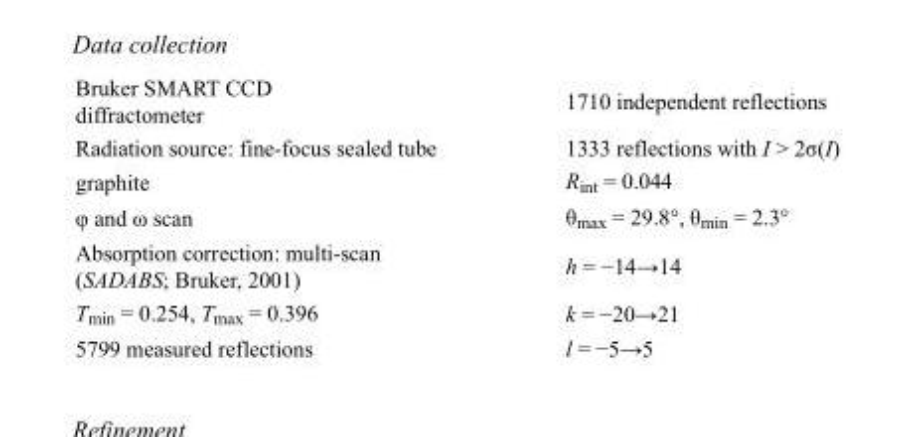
<table><tbody><tr><td>Bruker SMART CCD diffractometer</td><td>1710 independent reflections</td></tr><tr><td>Radiation source: fine-focus sealed tube</td><td>1333 reflections with I &gt; 2σ(I)</td></tr><tr><td>graphite</td><td>R<sub>int</sub> = 0.044</td></tr><tr><td>φ and ω scan</td><td>θ<sub>max</sub> = 29.8°, θ<sub>min</sub> = 2.3°</td></tr><tr><td>Absorption correction: multi-scan (SADABS; Bruker, 2001)</td><td>h = −14→14</td></tr><tr><td>T<sub>min</sub> = 0.254, T<sub>max</sub> = 0.396</td><td>k = −20→21</td></tr><tr><td>5799 measured reflections</td><td>l = −5→5</td></tr></tbody></table>